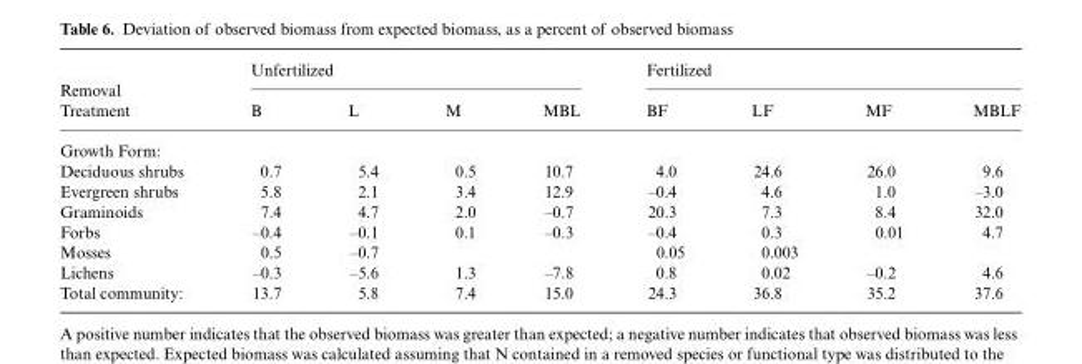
<table><thead><tr><td rowspan="2">Removal Treatment</td><td colspan="4">Unfertilized</td><td colspan="4">Fertilized</td></tr><tr><td>B</td><td>L</td><td>M</td><td>MBL</td><td>BF</td><td>LF</td><td>MF</td><td>MBLF</td></tr></thead><tbody><tr><td colspan="9">Growth Form:</td></tr><tr><td>Deciduous shrubs</td><td>0.7</td><td>5.4</td><td>0.5</td><td>10.7</td><td>4.0</td><td>24.6</td><td>26.0</td><td>9.6</td></tr><tr><td>Evergreen shrubs</td><td>5.8</td><td>2.1</td><td>3.4</td><td>12.9</td><td>–0.4</td><td>4.6</td><td>1.0</td><td>–3.0</td></tr><tr><td>Graminoids</td><td>7.4</td><td>4.7</td><td>2.0</td><td>–0.7</td><td>20.3</td><td>7.3</td><td>8.4</td><td>32.0</td></tr><tr><td>Forbs</td><td>–0.4</td><td>–0.1</td><td>0.1</td><td>–0.3</td><td>–0.4</td><td>0.3</td><td>0.01</td><td>4.7</td></tr><tr><td>Mosses</td><td>0.5</td><td>–0.7</td><td></td><td></td><td>0.05</td><td>0.003</td><td></td><td></td></tr><tr><td>Lichens</td><td>–0.3</td><td>–5.6</td><td>1.3</td><td>–7.8</td><td>0.8</td><td>0.02</td><td>–0.2</td><td>4.6</td></tr><tr><td>Total community:</td><td>13.7</td><td>5.8</td><td>7.4</td><td>15.0</td><td>24.3</td><td>36.8</td><td>35.2</td><td>37.6</td></tr></tbody></table>